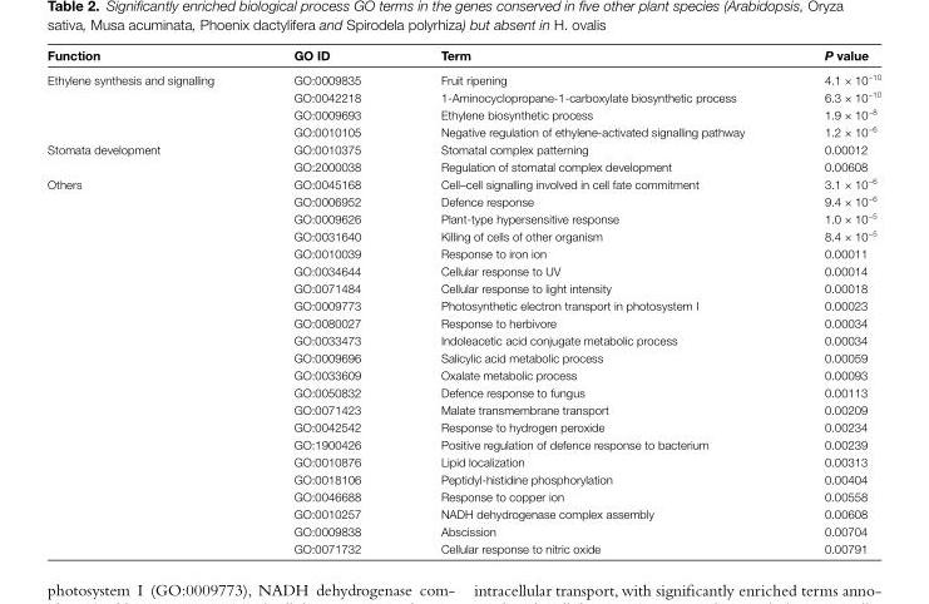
<table><thead><tr><td>Function</td><td>GO ID</td><td>Term</td><td>P value</td></tr></thead><tbody><tr><td rowspan="4">Ethylene synthesis and signalling</td><td>GO:0009835</td><td>Fruit ripening</td><td>4.1 × 10<sup>−10</sup></td></tr><tr><td>GO:0042218</td><td>1-Aminocyclopropane-1-carboxylate biosynthetic process</td><td>6.3 × 10<sup>−10</sup></td></tr><tr><td>GO:0009693</td><td>Ethylene biosynthetic process</td><td>1.9 × 10<sup>−8</sup></td></tr><tr><td>GO:0010105</td><td>Negative regulation of ethylene-activated signalling pathway</td><td>1.2 × 10<sup>−6</sup></td></tr><tr><td rowspan="2">Stomata development</td><td>GO:0010375</td><td>Stomatal complex patterning</td><td>0.00012</td></tr><tr><td>GO:2000038</td><td>Regulation of stomatal complex development</td><td>0.00608</td></tr><tr><td rowspan="22">Others</td><td>GO:0045168</td><td>Cell–cell signalling involved in cell fate commitment</td><td>3.1 × 10<sup>−6</sup></td></tr><tr><td>GO:0006952</td><td>Defence response</td><td>9.4 × 10<sup>−6</sup></td></tr><tr><td>GO:0009626</td><td>Plant-type hypersensitive response</td><td>1.0 × 10<sup>−5</sup></td></tr><tr><td>GO:0031640</td><td>Killing of cells of other organism</td><td>8.4 × 10<sup>−5</sup></td></tr><tr><td>GO:0010039</td><td>Response to iron ion</td><td>0.00011</td></tr><tr><td>GO:0034644</td><td>Cellular response to UV</td><td>0.00014</td></tr><tr><td>GO:0071484</td><td>Cellular response to light intensity</td><td>0.00018</td></tr><tr><td>GO:0009773</td><td>Photosynthetic electron transport in photosystem I</td><td>0.00023</td></tr><tr><td>GO:0080027</td><td>Response to herbivore</td><td>0.00034</td></tr><tr><td>GO:0033473</td><td>Indoleacetic acid conjugate metabolic process</td><td>0.00034</td></tr><tr><td>GO:0009696</td><td>Salicylic acid metabolic process</td><td>0.00059</td></tr><tr><td>GO:0033609</td><td>Oxalate metabolic process</td><td>0.00093</td></tr><tr><td>GO:0050832</td><td>Defence response to fungus</td><td>0.00113</td></tr><tr><td>GO:0071423</td><td>Malate transmembrane transport</td><td>0.00209</td></tr><tr><td>GO:0042542</td><td>Response to hydrogen peroxide</td><td>0.00234</td></tr><tr><td>GO:1900426</td><td>Positive regulation of defence response to bacterium</td><td>0.00239</td></tr><tr><td>GO:0010876</td><td>Lipid localization</td><td>0.00313</td></tr><tr><td>GO:0018106</td><td>Peptidyl-histidine phosphorylation</td><td>0.00404</td></tr><tr><td>GO:0046688</td><td>Response to copper ion</td><td>0.00558</td></tr><tr><td>GO:0010257</td><td>NADH dehydrogenase complex assembly</td><td>0.00608</td></tr><tr><td>GO:0009838</td><td>Abscission</td><td>0.00704</td></tr><tr><td>GO:0071732</td><td>Cellular response to nitric oxide</td><td>0.00791</td></tr></tbody></table>